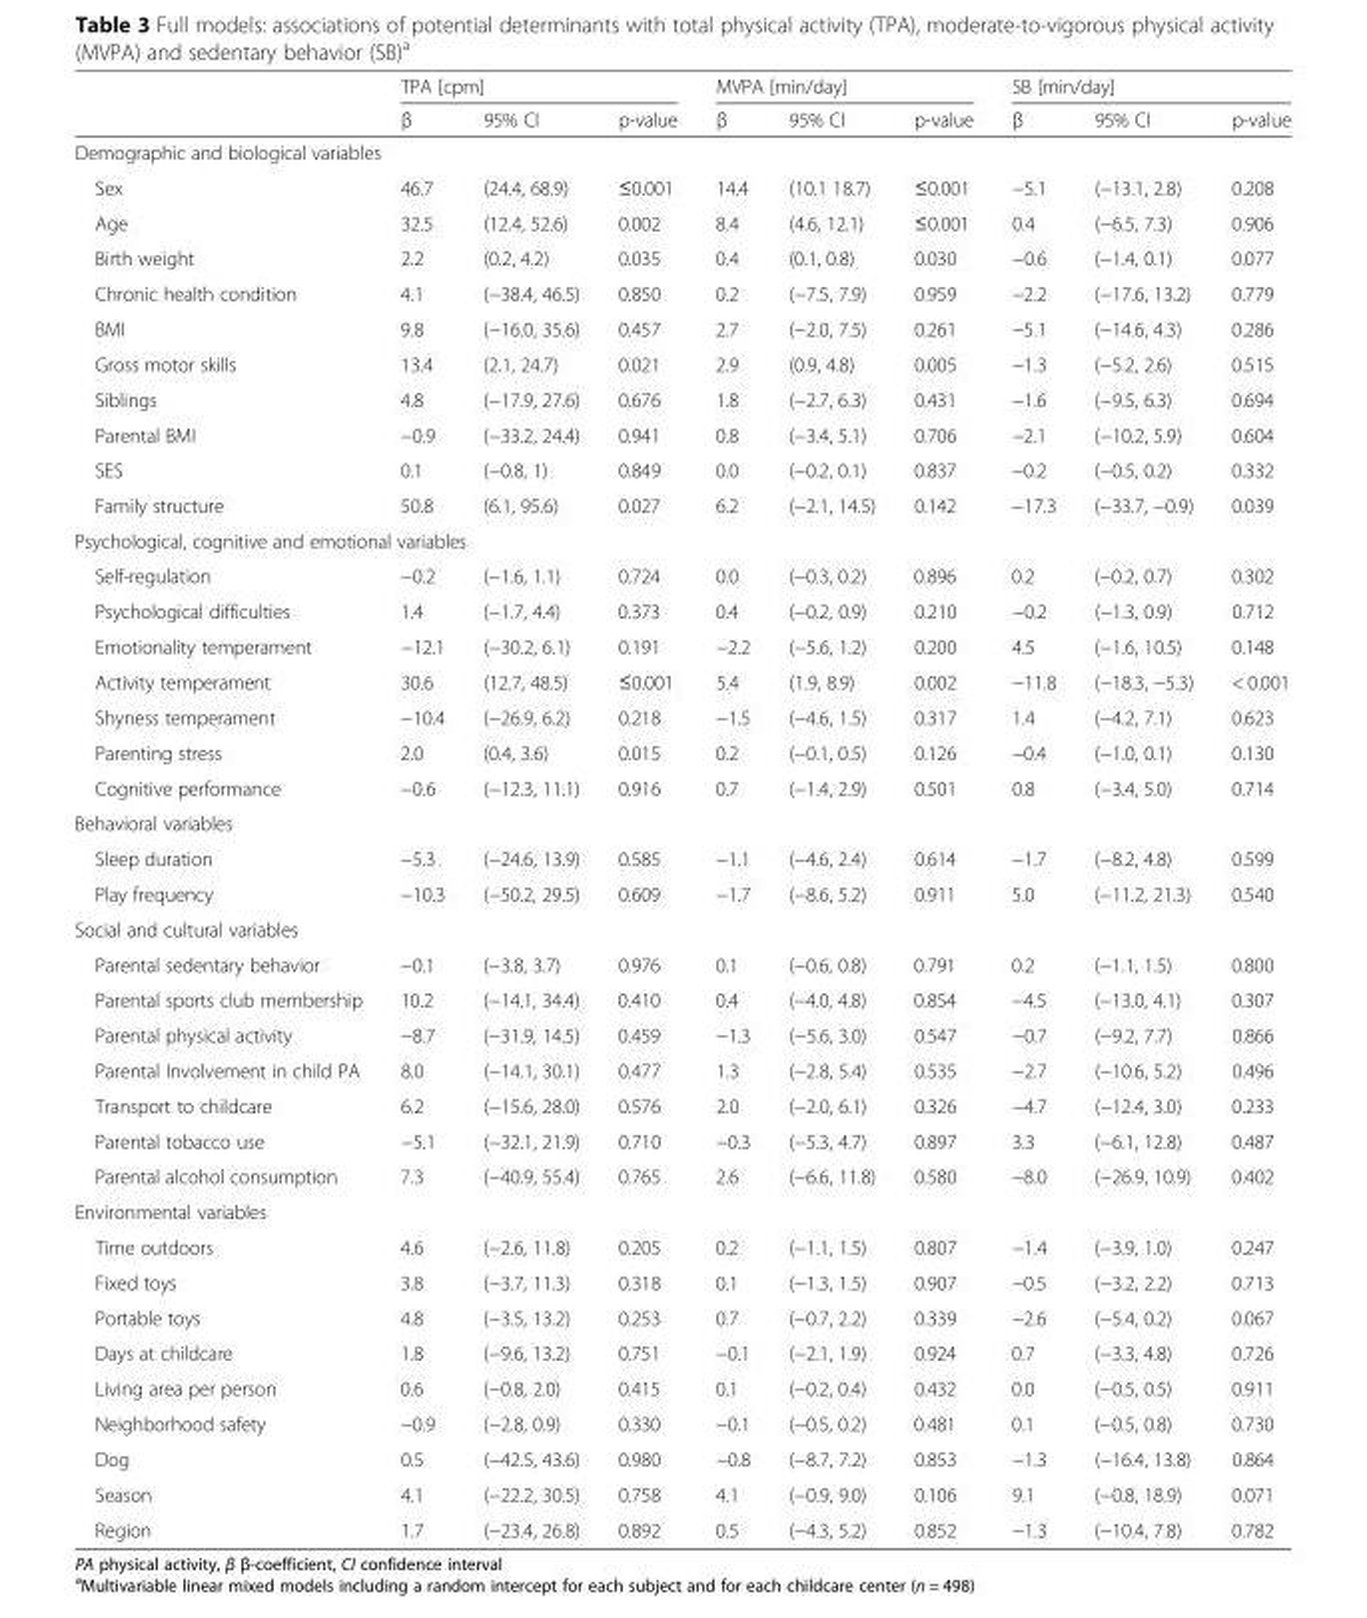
<table><thead><tr><td rowspan="2"></td><td colspan="3">TPA [cpm]</td><td colspan="3">MVPA [min/day]</td><td colspan="3">SB [min/day]</td></tr><tr><td>β</td><td>95% CI</td><td>p-value</td><td>β</td><td>95% CI</td><td>p-value</td><td>β</td><td>95% CI</td><td>p-value</td></tr></thead><tbody><tr><td colspan="10">Demographic and biological variables</td></tr><tr><td>Sex</td><td>46.7</td><td>(24.4, 68.9)</td><td>≤0.001</td><td>14.4</td><td>(10.1 18.7)</td><td>≤0.001</td><td>−5.1</td><td>(−13.1, 2.8)</td><td>0.208</td></tr><tr><td>Age</td><td>32.5</td><td>(12.4, 52.6)</td><td>0.002</td><td>8.4</td><td>(4.6, 12.1)</td><td>≤0.001</td><td>0.4</td><td>(−6.5, 7.3)</td><td>0.906</td></tr><tr><td>Birth weight</td><td>2.2</td><td>(0.2, 4.2)</td><td>0.035</td><td>0.4</td><td>(0.1, 0.8)</td><td>0.030</td><td>−0.6</td><td>(−1.4, 0.1)</td><td>0.077</td></tr><tr><td>Chronic health condition</td><td>4.1</td><td>(−38.4, 46.5)</td><td>0.850</td><td>0.2</td><td>(−7.5, 7.9)</td><td>0.959</td><td>−2.2</td><td>(−17.6, 13.2)</td><td>0.779</td></tr><tr><td>BMI</td><td>9.8</td><td>(−16.0, 35.6)</td><td>0.457</td><td>2.7</td><td>(−2.0, 7.5)</td><td>0.261</td><td>−5.1</td><td>(−14.6, 4.3)</td><td>0.286</td></tr><tr><td>Gross motor skills</td><td>13.4</td><td>(2.1, 24.7)</td><td>0.021</td><td>2.9</td><td>(0.9, 4.8)</td><td>0.005</td><td>−1.3</td><td>(−5.2, 2.6)</td><td>0.515</td></tr><tr><td>Siblings</td><td>4.8</td><td>(−17.9, 27.6)</td><td>0.676</td><td>1.8</td><td>(−2.7, 6.3)</td><td>0.431</td><td>−1.6</td><td>(−9.5, 6.3)</td><td>0.694</td></tr><tr><td>Parental BMI</td><td>−0.9</td><td>(−33.2, 24.4)</td><td>0.941</td><td>0.8</td><td>(−3.4, 5.1)</td><td>0.706</td><td>−2.1</td><td>(−10.2, 5.9)</td><td>0.604</td></tr><tr><td>SES</td><td>0.1</td><td>(−0.8, 1)</td><td>0.849</td><td>0.0</td><td>(−0.2, 0.1)</td><td>0.837</td><td>−0.2</td><td>(−0.5, 0.2)</td><td>0.332</td></tr><tr><td>Family structure</td><td>50.8</td><td>(6.1, 95.6)</td><td>0.027</td><td>6.2</td><td>(−2.1, 14.5)</td><td>0.142</td><td>−17.3</td><td>(−33.7, −0.9)</td><td>0.039</td></tr><tr><td colspan="10">Psychological, cognitive and emotional variables</td></tr><tr><td>Self-regulation</td><td>−0.2</td><td>(−1.6, 1.1)</td><td>0.724</td><td>0.0</td><td>(−0.3, 0.2)</td><td>0.896</td><td>0.2</td><td>(−0.2, 0.7)</td><td>0.302</td></tr><tr><td>Psychological difficulties</td><td>1.4</td><td>(−1.7, 4.4)</td><td>0.373</td><td>0.4</td><td>(−0.2, 0.9)</td><td>0.210</td><td>−0.2</td><td>(−1.3, 0.9)</td><td>0.712</td></tr><tr><td>Emotionality temperament</td><td>−12.1</td><td>(−30.2, 6.1)</td><td>0.191</td><td>−2.2</td><td>(−5.6, 1.2)</td><td>0.200</td><td>4.5</td><td>(−1.6, 10.5)</td><td>0.148</td></tr><tr><td>Activity temperament</td><td>30.6</td><td>(12.7, 48.5)</td><td>≤0.001</td><td>5.4</td><td>(1.9, 8.9)</td><td>0.002</td><td>−11.8</td><td>(−18.3, −5.3)</td><td>&lt; 0.001</td></tr><tr><td>Shyness temperament</td><td>−10.4</td><td>(−26.9, 6.2)</td><td>0.218</td><td>−1.5</td><td>(−4.6, 1.5)</td><td>0.317</td><td>1.4</td><td>(−4.2, 7.1)</td><td>0.623</td></tr><tr><td>Parenting stress</td><td>2.0</td><td>(0.4, 3.6)</td><td>0.015</td><td>0.2</td><td>(−0.1, 0.5)</td><td>0.126</td><td>−0.4</td><td>(−1.0, 0.1)</td><td>0.130</td></tr><tr><td>Cognitive performance</td><td>−0.6</td><td>(−12.3, 11.1)</td><td>0.916</td><td>0.7</td><td>(−1.4, 2.9)</td><td>0.501</td><td>0.8</td><td>(−3.4, 5.0)</td><td>0.714</td></tr><tr><td colspan="10">Behavioral variables</td></tr><tr><td>Sleep duration</td><td>−5.3</td><td>(−24.6, 13.9)</td><td>0.585</td><td>−1.1</td><td>(−4.6, 2.4)</td><td>0.614</td><td>−1.7</td><td>(−8.2, 4.8)</td><td>0.599</td></tr><tr><td>Play frequency</td><td>−10.3</td><td>(−50.2, 29.5)</td><td>0.609</td><td>−1.7</td><td>(−8.6, 5.2)</td><td>0.911</td><td>5.0</td><td>(−11.2, 21.3)</td><td>0.540</td></tr><tr><td colspan="10">Social and cultural variables</td></tr><tr><td>Parental sedentary behavior</td><td>−0.1</td><td>(−3.8, 3.7)</td><td>0.976</td><td>0.1</td><td>(−0.6, 0.8)</td><td>0.791</td><td>0.2</td><td>(−1.1, 1.5)</td><td>0.800</td></tr><tr><td>Parental sports club membership</td><td>10.2</td><td>(−14.1, 34.4)</td><td>0.410</td><td>0.4</td><td>(−4.0, 4.8)</td><td>0.854</td><td>−4.5</td><td>(−13.0, 4.1)</td><td>0.307</td></tr><tr><td>Parental physical activity</td><td>−8.7</td><td>(−31.9, 14.5)</td><td>0.459</td><td>−1.3</td><td>(−5.6, 3.0)</td><td>0.547</td><td>−0.7</td><td>(−9.2, 7.7)</td><td>0.866</td></tr><tr><td>Parental Involvement in child PA</td><td>8.0</td><td>(−14.1, 30.1)</td><td>0.477</td><td>1.3</td><td>(−2.8, 5.4)</td><td>0.535</td><td>−2.7</td><td>(−10.6, 5.2)</td><td>0.496</td></tr><tr><td>Transport to childcare</td><td>6.2</td><td>(−15.6, 28.0)</td><td>0.576</td><td>2.0</td><td>(−2.0, 6.1)</td><td>0.326</td><td>−4.7</td><td>(−12.4, 3.0)</td><td>0.233</td></tr><tr><td>Parental tobacco use</td><td>−5.1</td><td>(−32.1, 21.9)</td><td>0.710</td><td>−0.3</td><td>(−5.3, 4.7)</td><td>0.897</td><td>3.3</td><td>(−6.1, 12.8)</td><td>0.487</td></tr><tr><td>Parental alcohol consumption</td><td>7.3</td><td>(−40.9, 55.4)</td><td>0.765</td><td>2.6</td><td>(−6.6, 11.8)</td><td>0.580</td><td>−8.0</td><td>(−26.9, 10.9)</td><td>0.402</td></tr><tr><td colspan="10">Environmental variables</td></tr><tr><td>Time outdoors</td><td>4.6</td><td>(−2.6, 11.8)</td><td>0.205</td><td>0.2</td><td>(−1.1, 1.5)</td><td>0.807</td><td>−1.4</td><td>(−3.9, 1.0)</td><td>0.247</td></tr><tr><td>Fixed toys</td><td>3.8</td><td>(−3.7, 11.3)</td><td>0.318</td><td>0.1</td><td>(−1.3, 1.5)</td><td>0.907</td><td>−0.5</td><td>(−3.2, 2.2)</td><td>0.713</td></tr><tr><td>Portable toys</td><td>4.8</td><td>(−3.5, 13.2)</td><td>0.253</td><td>0.7</td><td>(−0.7, 2.2)</td><td>0.339</td><td>−2.6</td><td>(−5.4, 0.2)</td><td>0.067</td></tr><tr><td>Days at childcare</td><td>1.8</td><td>(−9.6, 13.2)</td><td>0.751</td><td>−0.1</td><td>(−2.1, 1.9)</td><td>0.924</td><td>0.7</td><td>(−3.3, 4.8)</td><td>0.726</td></tr><tr><td>Living area per person</td><td>0.6</td><td>(−0.8, 2.0)</td><td>0.415</td><td>0.1</td><td>(−0.2, 0.4)</td><td>0.432</td><td>0.0</td><td>(−0.5, 0.5)</td><td>0.911</td></tr><tr><td>Neighborhood safety</td><td>−0.9</td><td>(−2.8, 0.9)</td><td>0.330</td><td>−0.1</td><td>(−0.5, 0.2)</td><td>0.481</td><td>0.1</td><td>(−0.5, 0.8)</td><td>0.730</td></tr><tr><td>Dog</td><td>0.5</td><td>(−42.5, 43.6)</td><td>0.980</td><td>−0.8</td><td>(−8.7, 7.2)</td><td>0.853</td><td>−1.3</td><td>(−16.4, 13.8)</td><td>0.864</td></tr><tr><td>Season</td><td>4.1</td><td>(−22.2, 30.5)</td><td>0.758</td><td>4.1</td><td>(−0.9, 9.0)</td><td>0.106</td><td>9.1</td><td>(−0.8, 18.9)</td><td>0.071</td></tr><tr><td>Region</td><td>1.7</td><td>(−23.4, 26.8)</td><td>0.892</td><td>0.5</td><td>(−4.3, 5.2)</td><td>0.852</td><td>−1.3</td><td>(−10.4, 7.8)</td><td>0.782</td></tr></tbody></table>